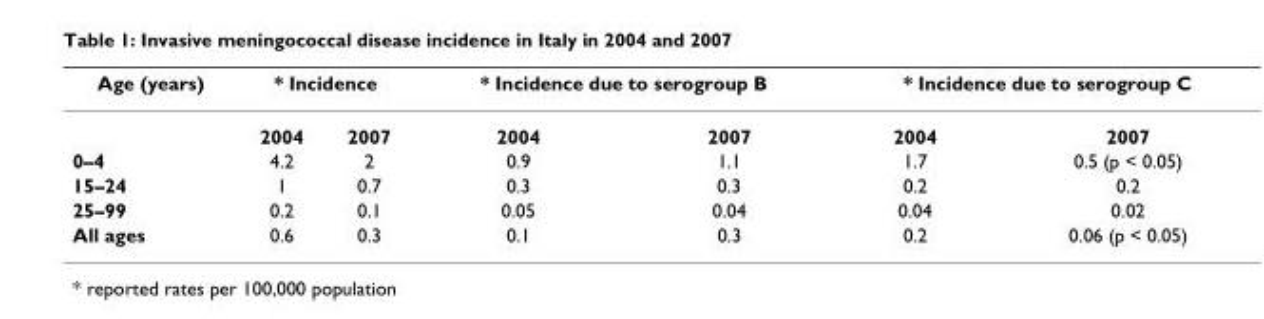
<table><thead><tr><td rowspan="2">Age (years)</td><td colspan="2">* Incidence</td><td colspan="2">* Incidence due to serogroup B</td><td colspan="2">* Incidence due to serogroup C</td></tr><tr><td>2004</td><td>2007</td><td>2004</td><td>2007</td><td>2004</td><td>2007</td></tr></thead><tbody><tr><td>0–4</td><td>4.2</td><td>2</td><td>0.9</td><td>1.1</td><td>1.7</td><td>0.5 (p &lt; 0.05)</td></tr><tr><td>15–24</td><td>1</td><td>0.7</td><td>0.3</td><td>0.3</td><td>0.2</td><td>0.2</td></tr><tr><td>25–99</td><td>0.2</td><td>0.1</td><td>0.05</td><td>0.04</td><td>0.04</td><td>0.02</td></tr><tr><td>All ages</td><td>0.6</td><td>0.3</td><td>0.1</td><td>0.3</td><td>0.2</td><td>0.06 (p &lt; 0.05)</td></tr></tbody></table>